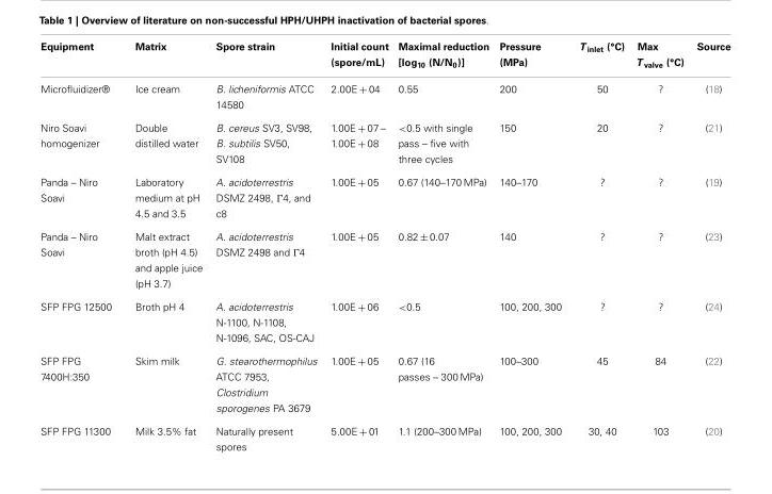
<table><thead><tr><td>Equipment</td><td>Matrix</td><td>Spore strain</td><td>Initial count (spore/mL)</td><td>Maximal reduction [log<sub>10</sub> (N/N<sub>0</sub>)]</td><td>Pressure (MPa)</td><td>T <sub>inlet</sub> (°C)</td><td>Max T <sub>valve</sub> (°C)</td><td>Source</td></tr></thead><tbody><tr><td>Microfluidizer<sup>®</sup></td><td>Ice cream</td><td>B. licheniformis ATCC 14580</td><td>2.00E + 04</td><td>0.55</td><td>200</td><td>50</td><td>?</td><td>(18)</td></tr><tr><td>Niro Soavi homogenizer</td><td>Double distilled water</td><td>B. cereus SV3, SV98, B. subtilis SV50, SV108</td><td>1.00E + 07 – 1.00E + 08</td><td>&lt;0.5 with single pass – five with three cycles</td><td>150</td><td>20</td><td>?</td><td>(21)</td></tr><tr><td>Panda – Niro Soavi</td><td>Laboratory medium at pH 4.5 and 3.5</td><td>A. acidoterrestris DSMZ 2498, Γ4, and c8</td><td>1.00E + 05</td><td>0.67 (140–170 MPa)</td><td>140–170</td><td>?</td><td>?</td><td>(19)</td></tr><tr><td>Panda – Niro Soavi</td><td>Malt extract broth (pH 4.5) and apple juice (pH 3.7)</td><td>A. acidoterrestris DSMZ 2498 and Γ4</td><td>1.00E + 05</td><td>0.82 ± 0.07</td><td>140</td><td>?</td><td>?</td><td>(23)</td></tr><tr><td>SFP FPG 12500</td><td>Broth pH 4</td><td>A. acidoterrestris N-1100, N-1108, N-1096, SAC, OS-CAJ</td><td>1.00E + 06</td><td>&lt;0.5</td><td>100, 200, 300</td><td>?</td><td>?</td><td>(24)</td></tr><tr><td>SFP FPG 7400H:350</td><td>Skim milk</td><td>G. stearothermophilus ATCC 7953, Clostridium sporogenes PA 3679</td><td>1.00E + 05</td><td>0.67 (16 passes – 300 MPa)</td><td>100–300</td><td>45</td><td>84</td><td>(22)</td></tr><tr><td>SFP FPG 11300</td><td>Milk 3.5% fat</td><td>Naturally present spores</td><td>5.00E + 01</td><td>1.1 (200–300 MPa)</td><td>100, 200, 300</td><td>30, 40</td><td>103</td><td>(20)</td></tr></tbody></table>